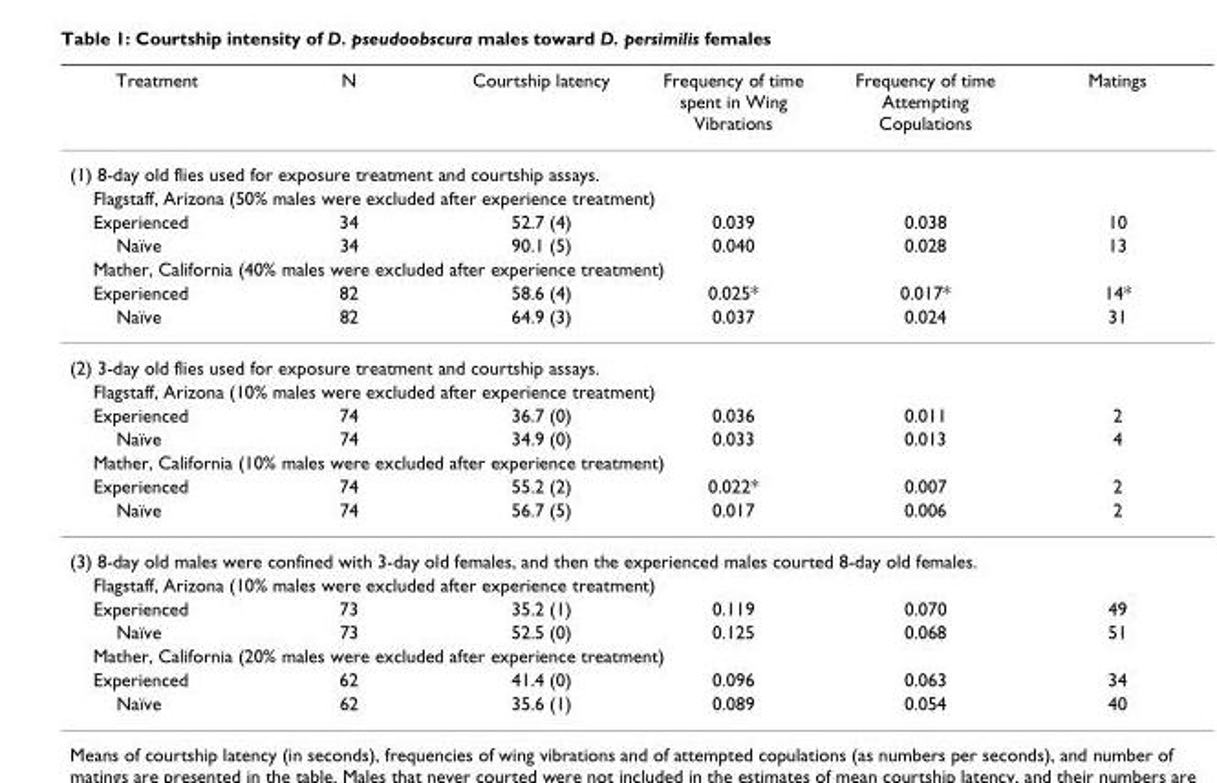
<table><thead><tr><td>Treatment</td><td>N</td><td>Courtship latency</td><td>Frequency of time spent in Wing Vibrations</td><td>Frequency of time Attempting Copulations</td><td>Matings</td></tr></thead><tbody><tr><td colspan="6">(1) 8-day old flies used for exposure treatment and courtship assays.</td></tr><tr><td colspan="6">Flagstaff, Arizona (50% males were excluded after experience treatment)</td></tr><tr><td>Experienced</td><td>34</td><td>52.7 (4)</td><td>0.039</td><td>0.038</td><td>10</td></tr><tr><td>Naïve</td><td>34</td><td>90.1 (5)</td><td>0.040</td><td>0.028</td><td>13</td></tr><tr><td colspan="6">Mather, California (40% males were excluded after experience treatment)</td></tr><tr><td>Experienced</td><td>82</td><td>58.6 (4)</td><td>0.025*</td><td>0.017*</td><td>14*</td></tr><tr><td>Naïve</td><td>82</td><td>64.9 (3)</td><td>0.037</td><td>0.024</td><td>31</td></tr><tr><td colspan="6">(2) 3-day old flies used for exposure treatment and courtship assays.</td></tr><tr><td colspan="6">Flagstaff, Arizona (10% males were excluded after experience treatment)</td></tr><tr><td>Experienced</td><td>74</td><td>36.7 (0)</td><td>0.036</td><td>0.011</td><td>2</td></tr><tr><td>Naïve</td><td>74</td><td>34.9 (0)</td><td>0.033</td><td>0.013</td><td>4</td></tr><tr><td colspan="6">Mather, California (10% males were excluded after experience treatment)</td></tr><tr><td>Experienced</td><td>74</td><td>55.2 (2)</td><td>0.022*</td><td>0.007</td><td>2</td></tr><tr><td>Naïve</td><td>74</td><td>56.7 (5)</td><td>0.017</td><td>0.006</td><td>2</td></tr><tr><td colspan="6">(3) 8-day old males were confined with 3-day old females, and then the experienced males courted 8-day old females.</td></tr><tr><td colspan="6">Flagstaff, Arizona (10% males were excluded after experience treatment)</td></tr><tr><td>Experienced</td><td>73</td><td>35.2 (1)</td><td>0.119</td><td>0.070</td><td>49</td></tr><tr><td>Naïve</td><td>73</td><td>52.5 (0)</td><td>0.125</td><td>0.068</td><td>51</td></tr><tr><td colspan="6">Mather, California (20% males were excluded after experience treatment)</td></tr><tr><td>Experienced</td><td>62</td><td>41.4 (0)</td><td>0.096</td><td>0.063</td><td>34</td></tr><tr><td>Naïve</td><td>62</td><td>35.6 (1)</td><td>0.089</td><td>0.054</td><td>40</td></tr></tbody></table>